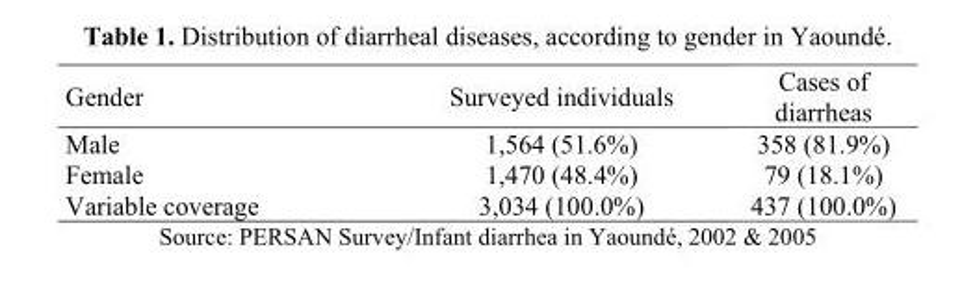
<table><thead><tr><td>Gender</td><td>Surveyed individuals</td><td>Cases of diarrheas</td></tr></thead><tbody><tr><td>Male</td><td>1,564 (51.6%)</td><td>358 (81.9%)</td></tr><tr><td>Female</td><td>1,470 (48.4%)</td><td>79 (18.1%)</td></tr><tr><td>Variable coverage</td><td>3,034 (100.0%)</td><td>437 (100.0%)</td></tr></tbody></table>